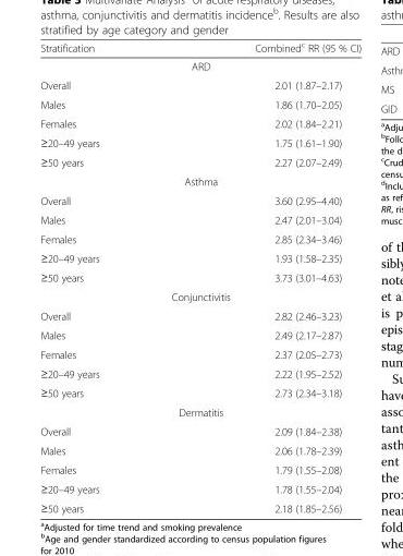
<table><thead><tr><td>Stratification</td><td>Combined<sup>c</sup> RR (95 % CI)</td></tr></thead><tbody><tr><td colspan="2">ARD</td></tr><tr><td>Overall</td><td>2.01 (1.87–2.17)</td></tr><tr><td>Males</td><td>1.86 (1.70–2.05)</td></tr><tr><td>Females</td><td>2.02 (1.84–2.21)</td></tr><tr><td>≥20–49 years</td><td>1.75 (1.61–1.90)</td></tr><tr><td>≥50 years</td><td>2.27 (2.07–2.49)</td></tr><tr><td colspan="2">Asthma</td></tr><tr><td>Overall</td><td>3.60 (2.95–4.40)</td></tr><tr><td>Males</td><td>2.47 (2.01–3.04)</td></tr><tr><td>Females</td><td>2.85 (2.34–3.46)</td></tr><tr><td>≥20–49 years</td><td>1.93 (1.58–2.35)</td></tr><tr><td>≥50 years</td><td>3.73 (3.01–4.63)</td></tr><tr><td colspan="2">Conjunctivitis</td></tr><tr><td>Overall</td><td>2.82 (2.46–3.23)</td></tr><tr><td>Males</td><td>2.49 (2.17–2.87)</td></tr><tr><td>Females</td><td>2.37 (2.05–2.73)</td></tr><tr><td>≥20–49 years</td><td>2.22 (1.95–2.52)</td></tr><tr><td>≥50 years</td><td>2.73 (2.34–3.18)</td></tr><tr><td colspan="2">Dermatitis</td></tr><tr><td>Overall</td><td>2.09 (1.84–2.38)</td></tr><tr><td>Males</td><td>2.06 (1.78–2.39)</td></tr><tr><td>Females</td><td>1.79 (1.55–2.08)</td></tr><tr><td>≥20–49 years</td><td>1.78 (1.55–2.04)</td></tr><tr><td>≥50 years</td><td>2.18 (1.85–2.56)</td></tr></tbody></table>